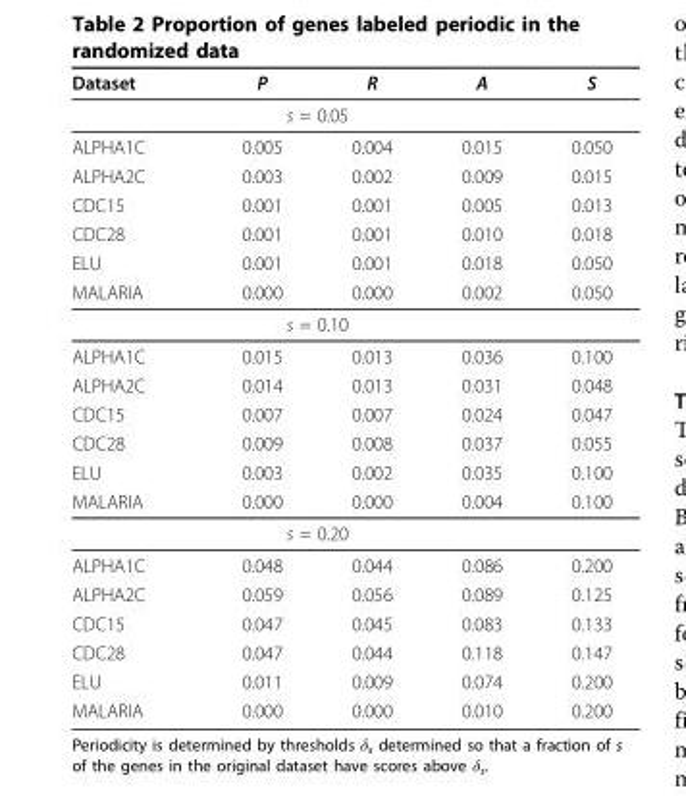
<table><thead><tr><td>Dataset</td><td>P</td><td>R</td><td>A</td><td>S</td></tr></thead><tbody><tr><td></td><td colspan="2">s = 0.05</td><td></td><td></td></tr><tr><td>ALPHA1C</td><td>0.005</td><td>0.004</td><td>0.015</td><td>0.050</td></tr><tr><td>ALPHA2C</td><td>0.003</td><td>0.002</td><td>0.009</td><td>0.015</td></tr><tr><td>CDC15</td><td>0.001</td><td>0.001</td><td>0.005</td><td>0.013</td></tr><tr><td>CDC28</td><td>0.001</td><td>0.001</td><td>0.010</td><td>0.018</td></tr><tr><td>ELU</td><td>0.001</td><td>0.001</td><td>0.018</td><td>0.050</td></tr><tr><td rowspan="2">MALARIA</td><td>0.000</td><td>0.000</td><td>0.002</td><td>0.050</td></tr><tr><td colspan="2">s = 0.10</td><td></td><td></td></tr><tr><td>ALPHA1C</td><td>0.015</td><td>0.013</td><td>0.036</td><td>0.100</td></tr><tr><td>ALPHA2C</td><td>0.014</td><td>0.013</td><td>0.031</td><td>0.048</td></tr><tr><td>CDC15</td><td>0.007</td><td>0.007</td><td>0.024</td><td>0.047</td></tr><tr><td>CDC28</td><td>0.009</td><td>0.008</td><td>0.037</td><td>0.055</td></tr><tr><td>ELU</td><td>0.003</td><td>0.002</td><td>0.035</td><td>0.100</td></tr><tr><td rowspan="2">MALARIA</td><td>0.000</td><td>0.000</td><td>0.004</td><td>0.100</td></tr><tr><td colspan="2">s = 0.20</td><td></td><td></td></tr><tr><td>ALPHA1C</td><td>0.048</td><td>0.044</td><td>0.086</td><td>0.200</td></tr><tr><td>ALPHA2C</td><td>0.059</td><td>0.056</td><td>0.089</td><td>0.125</td></tr><tr><td>CDC15</td><td>0.047</td><td>0.045</td><td>0.083</td><td>0.133</td></tr><tr><td>CDC28</td><td>0.047</td><td>0.044</td><td>0.118</td><td>0.147</td></tr><tr><td>ELU</td><td>0.011</td><td>0.009</td><td>0.074</td><td>0.200</td></tr><tr><td>MALARIA</td><td>0.000</td><td>0.000</td><td>0.010</td><td>0.200</td></tr></tbody></table>